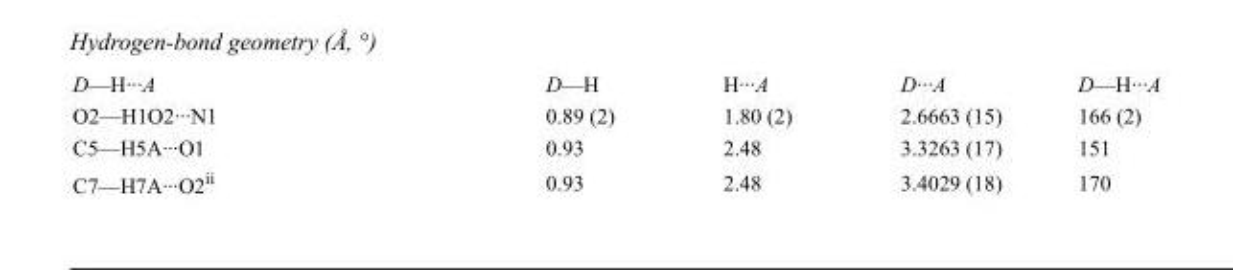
<table><tbody><tr><td>D—H···A</td><td>D—H</td><td>H···A</td><td>D···A</td><td>D—H···A</td></tr><tr><td>O2—H1O2···N1</td><td>0.89 (2)</td><td>1.80 (2)</td><td>2.6663 (15)</td><td>166 (2)</td></tr><tr><td>C5—H5A···O1</td><td>0.93</td><td>2.48</td><td>3.3263 (17)</td><td>151</td></tr><tr><td>C7—H7A···O2<sup>ii</sup></td><td>0.93</td><td>2.48</td><td>3.4029 (18)</td><td>170</td></tr></tbody></table>